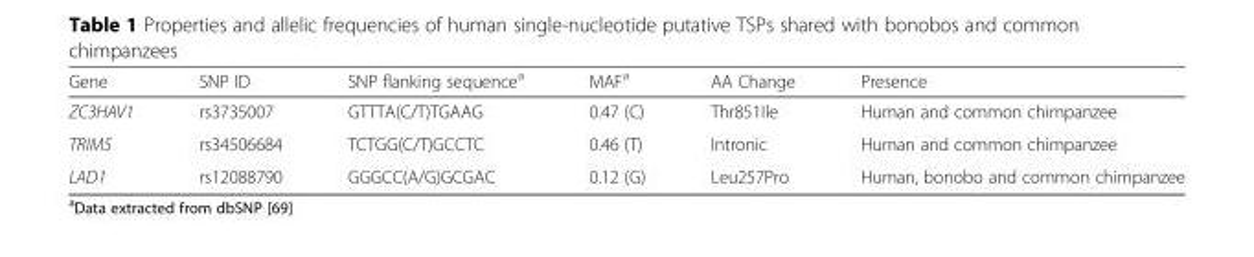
<table><thead><tr><td>Gene</td><td>SNP ID</td><td>SNP flanking sequence<sup>a</sup></td><td>MAF<sup>a</sup></td><td>AA Change</td><td>Presence</td></tr></thead><tbody><tr><td>ZC3HAV1</td><td>rs3735007</td><td>GTTTA(C/T)TGAAG</td><td>0.47 (C)</td><td>Thr851Ile</td><td>Human and common chimpanzee</td></tr><tr><td>TRIM5</td><td>rs34506684</td><td>TCTGG(C/T)GCCTC</td><td>0.46 (T)</td><td>Intronic</td><td>Human and common chimpanzee</td></tr><tr><td>LAD1</td><td>rs12088790</td><td>GGGCC(A/G)GCGAC</td><td>0.12 (G)</td><td>Leu257Pro</td><td>Human, bonobo and common chimpanzee</td></tr></tbody></table>